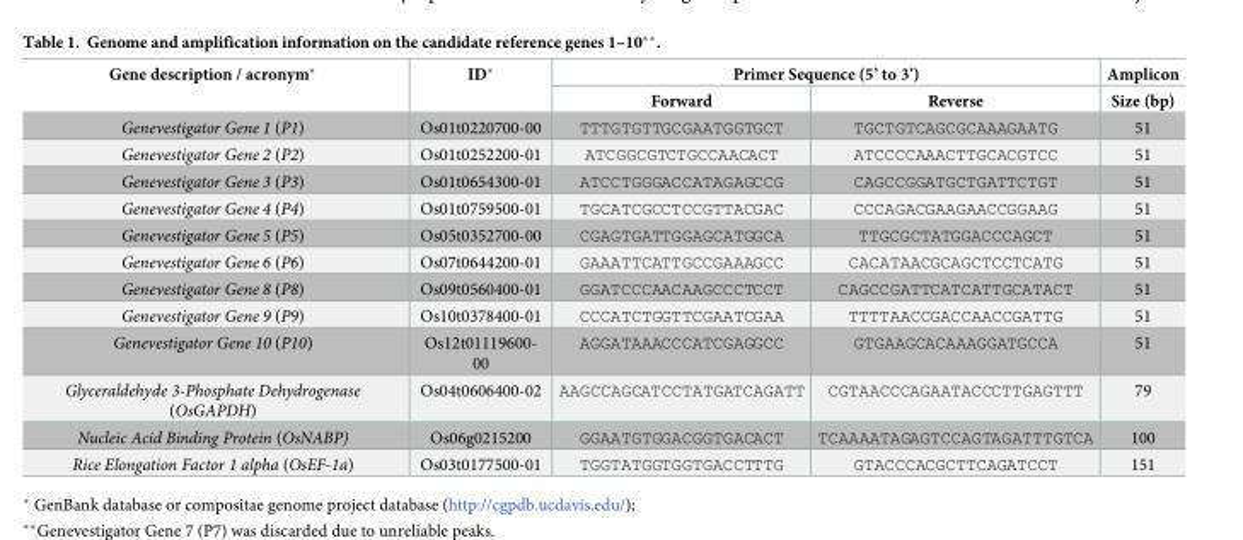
<table><thead><tr><td rowspan="2">Gene description / acronym*</td><td rowspan="2">ID*</td><td colspan="2">Primer Sequence (5’ to 3’)</td><td rowspan="2">Amplicon Size (bp)</td></tr><tr><td>Forward</td><td>Reverse</td></tr></thead><tbody><tr><td>Genevestigator Gene 1 (P1)</td><td>Os01t0220700-00</td><td>TTTGTGTTGCGAATGGTGCT</td><td>TGCTGTCAGCGCAAAGAATG</td><td>51</td></tr><tr><td>Genevestigator Gene 2 (P2)</td><td>Os01t0252200-01</td><td>ATCGGCGTCTGCCAACACT</td><td>ATCCCCAAACTTGCACGTCC</td><td>51</td></tr><tr><td>Genevestigator Gene 3 (P3)</td><td>Os01t0654300-01</td><td>ATCCTGGGACCATAGAGCCG</td><td>CAGCCGGATGCTGATTCTGT</td><td>51</td></tr><tr><td>Genevestigator Gene 4 (P4)</td><td>Os01t0759500-01</td><td>TGCATCGCCTCCGTTACGAC</td><td>CCCAGACGAAGAACCGGAAG</td><td>51</td></tr><tr><td>Genevestigator Gene 5 (P5)</td><td>Os05t0352700-00</td><td>CGAGTGATTGGAGCATGGCA</td><td>TTGCGCTATGGACCCAGCT</td><td>51</td></tr><tr><td>Genevestigator Gene 6 (P6)</td><td>Os07t0644200-01</td><td>GAAATTCATTGCCGAAAGCC</td><td>CACATAACGCAGCTCCTCATG</td><td>51</td></tr><tr><td>Genevestigator Gene 8 (P8)</td><td>Os09t0560400-01</td><td>GGATCCCAACAAGCCCTCCT</td><td>CAGCCGATTCATCATTGCATACT</td><td>51</td></tr><tr><td>Genevestigator Gene 9 (P9)</td><td>Os10t0378400-01</td><td>CCCATCTGGTTCGAATCGAA</td><td>TTTTAACCGACCAACCGATTG</td><td>51</td></tr><tr><td>Genevestigator Gene 10 (P10)</td><td>Os12t01119600- 00</td><td>AGGATAAACCCATCGAGGCC</td><td>GTGAAGCACAAAGGATGCCA</td><td>51</td></tr><tr><td>Glyceraldehyde 3-Phosphate Dehydrogenase (OsGAPDH)</td><td>Os04t0606400-02</td><td>AAGCCAGCATCCTATGATCAGATT</td><td>CGTAACCCAGAATACCCTTGAGTTT</td><td>79</td></tr><tr><td>Nucleic Acid Binding Protein (OsNABP)</td><td>Os06g0215200</td><td>GGAATGTGGACGGTGACACT</td><td>TCAAAATAGAGTCCAGTAGATTTGTCA</td><td>100</td></tr><tr><td>Rice Elongation Factor 1 alpha (OsEF-1a)</td><td>Os03t0177500-01</td><td>TGGTATGGTGGTGACCTTTG</td><td>GTACCCACGCTTCAGATCCT</td><td>151</td></tr></tbody></table>